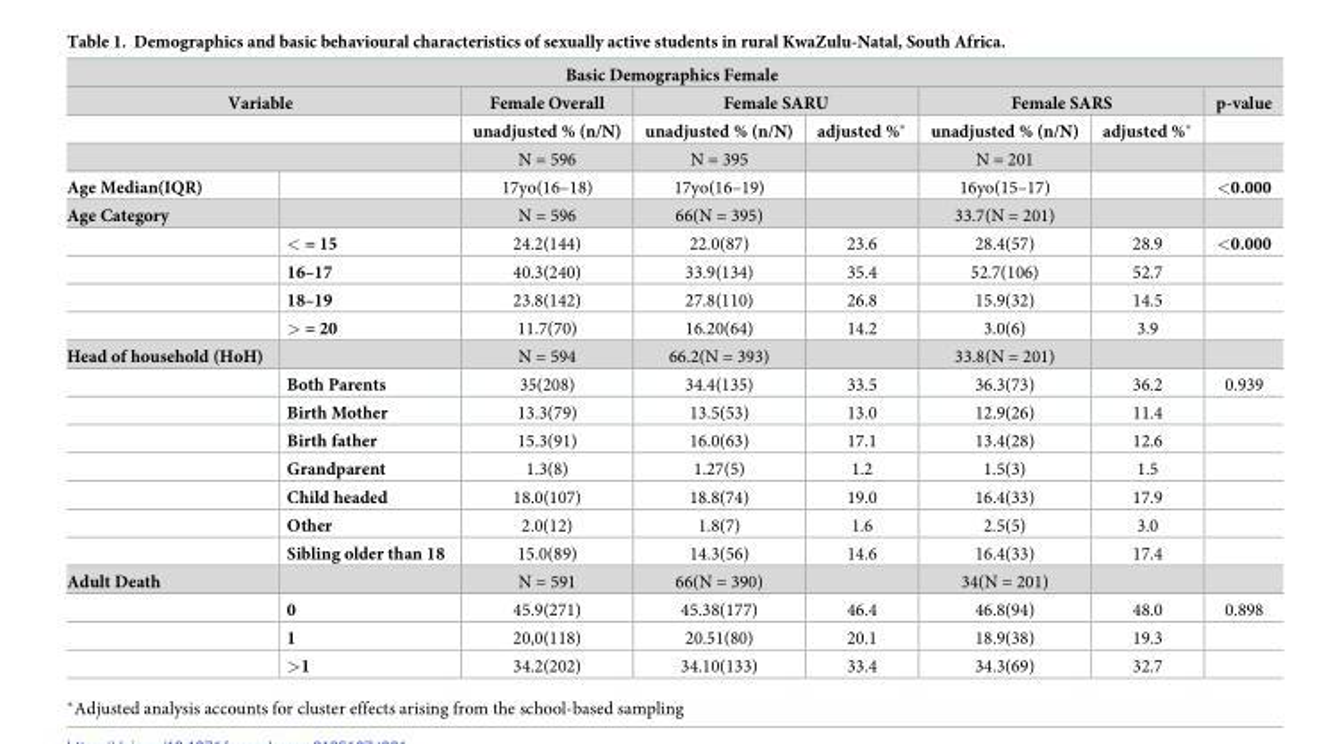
<table><thead><tr><td colspan="8">Basic Demographics Female</td></tr><tr><td colspan="2">Variable</td><td rowspan="2">Female Overall unadjusted % (n/N)</td><td colspan="2">Female SARU</td><td colspan="2">Female SARS</td><td rowspan="2">p-value</td></tr><tr><td></td><td></td><td>unadjusted % (n/N)</td><td>adjusted %*</td><td>unadjusted % (n/N)</td><td>adjusted %*</td></tr></thead><tbody><tr><td colspan="2"></td><td>N = 596</td><td>N = 395</td><td></td><td>N = 201</td><td></td><td></td></tr><tr><td>Age Median(IQR)</td><td></td><td>17yo(16–18)</td><td>17yo(16–19)</td><td></td><td>16yo(15–17)</td><td></td><td>&lt;0.000</td></tr><tr><td rowspan="5">Age Category</td><td></td><td>N = 596</td><td>66(N = 395)</td><td></td><td>33.7(N = 201)</td><td></td><td></td></tr><tr><td>&lt; = 15</td><td>24.2(144)</td><td>22.0(87)</td><td>23.6</td><td>28.4(57)</td><td>28.9</td><td>&lt;0.000</td></tr><tr><td>16–17</td><td>40.3(240)</td><td>33.9(134)</td><td>35.4</td><td>52.7(106)</td><td>52.7</td><td></td></tr><tr><td>18–19</td><td>23.8(142)</td><td>27.8(110)</td><td>26.8</td><td>15.9(32)</td><td>14.5</td><td></td></tr><tr><td>&gt; = 20</td><td>11.7(70)</td><td>16.20(64)</td><td>14.2</td><td>3.0(6)</td><td>3.9</td><td></td></tr><tr><td rowspan="8">Head of household (HoH)</td><td></td><td>N = 594</td><td>66.2(N = 393)</td><td></td><td>33.8(N = 201)</td><td></td><td></td></tr><tr><td>Both Parents</td><td>35(208)</td><td>34.4(135)</td><td>33.5</td><td>36.3(73)</td><td>36.2</td><td>0.939</td></tr><tr><td>Birth Mother</td><td>13.3(79)</td><td>13.5(53)</td><td>13.0</td><td>12.9(26)</td><td>11.4</td><td></td></tr><tr><td>Birth father</td><td>15.3(91)</td><td>16.0(63)</td><td>17.1</td><td>13.4(28)</td><td>12.6</td><td></td></tr><tr><td>Grandparent</td><td>1.3(8)</td><td>1.27(5)</td><td>1.2</td><td>1.5(3)</td><td>1.5</td><td></td></tr><tr><td>Child headed</td><td>18.0(107)</td><td>18.8(74)</td><td>19.0</td><td>16.4(33)</td><td>17.9</td><td></td></tr><tr><td>Other</td><td>2.0(12)</td><td>1.8(7)</td><td>1.6</td><td>2.5(5)</td><td>3.0</td><td></td></tr><tr><td>Sibling older than 18</td><td>15.0(89)</td><td>14.3(56)</td><td>14.6</td><td>16.4(33)</td><td>17.4</td><td></td></tr><tr><td rowspan="4">Adult Death</td><td></td><td>N = 591</td><td>66(N = 390)</td><td></td><td>34(N = 201)</td><td></td><td></td></tr><tr><td>0</td><td>45.9(271)</td><td>45.38(177)</td><td>46.4</td><td>46.8(94)</td><td>48.0</td><td>0.898</td></tr><tr><td>1</td><td>20,0(118)</td><td>20.51(80)</td><td>20.1</td><td>18.9(38)</td><td>19.3</td><td></td></tr><tr><td>&gt;1</td><td>34.2(202)</td><td>34.10(133)</td><td>33.4</td><td>34.3(69)</td><td>32.7</td><td></td></tr></tbody></table>